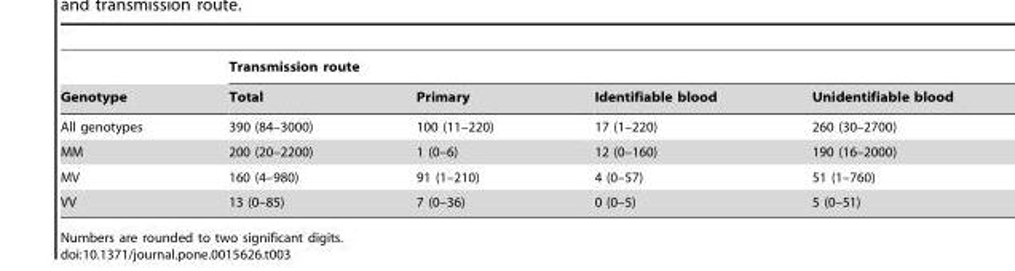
<table><thead><tr><td rowspan="2">Genotype</td><td colspan="4">Transmission route</td></tr><tr><td>Total</td><td>Primary</td><td>Identifiable blood</td><td>Unidentifiable blood</td></tr></thead><tbody><tr><td>All genotypes</td><td>390 (84–3000)</td><td>100 (11–220)</td><td>17 (1–220)</td><td>260 (30–2700)</td></tr><tr><td>MM</td><td>200 (20–2200)</td><td>1 (0–6)</td><td>12 (0–160)</td><td>190 (16–2000)</td></tr><tr><td>MV</td><td>160 (4–980)</td><td>91 (1–210)</td><td>4 (0–57)</td><td>51 (1–760)</td></tr><tr><td>VV</td><td>13 (0–85)</td><td>7 (0–36)</td><td>0 (0–5)</td><td>5 (0–51)</td></tr></tbody></table>